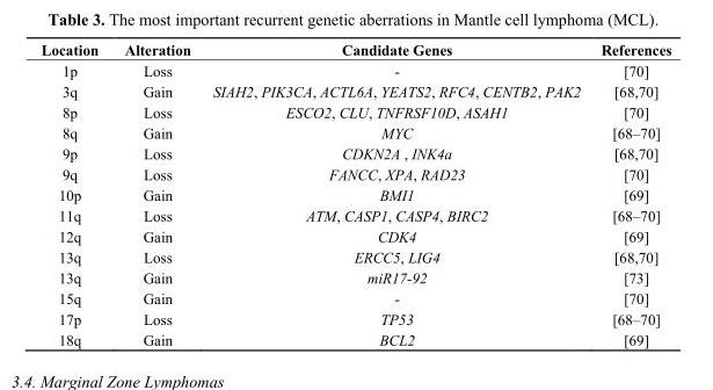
<table><thead><tr><td>Location</td><td>Alteration</td><td>Candidate Genes</td><td>References</td></tr></thead><tbody><tr><td>1p</td><td>Loss</td><td>-</td><td>[70]</td></tr><tr><td>3q</td><td>Gain</td><td>SIAH2, PIK3CA, ACTL6A, YEATS2, RFC4, CENTB2, PAK2</td><td>[68,70]</td></tr><tr><td>8p</td><td>Loss</td><td>ESCO2, CLU, TNFRSF10D, ASAH1</td><td>[70]</td></tr><tr><td>8q</td><td>Gain</td><td>MYC</td><td>[68–70]</td></tr><tr><td>9p</td><td>Loss</td><td>CDKN2A , INK4a</td><td>[68,70]</td></tr><tr><td>9q</td><td>Loss</td><td>FANCC, XPA, RAD23</td><td>[70]</td></tr><tr><td>10p</td><td>Gain</td><td>BMI1</td><td>[69]</td></tr><tr><td>11q</td><td>Loss</td><td>ATM, CASP1, CASP4, BIRC2</td><td>[68–70]</td></tr><tr><td>12q</td><td>Gain</td><td>CDK4</td><td>[69]</td></tr><tr><td>13q</td><td>Loss</td><td>ERCC5, LIG4</td><td>[68,70]</td></tr><tr><td>13q</td><td>Gain</td><td>miR17-92</td><td>[73]</td></tr><tr><td>15q</td><td>Gain</td><td>-</td><td>[70]</td></tr><tr><td>17p</td><td>Loss</td><td>TP53</td><td>[68–70]</td></tr><tr><td>18q</td><td>Gain</td><td>BCL2</td><td>[69]</td></tr></tbody></table>